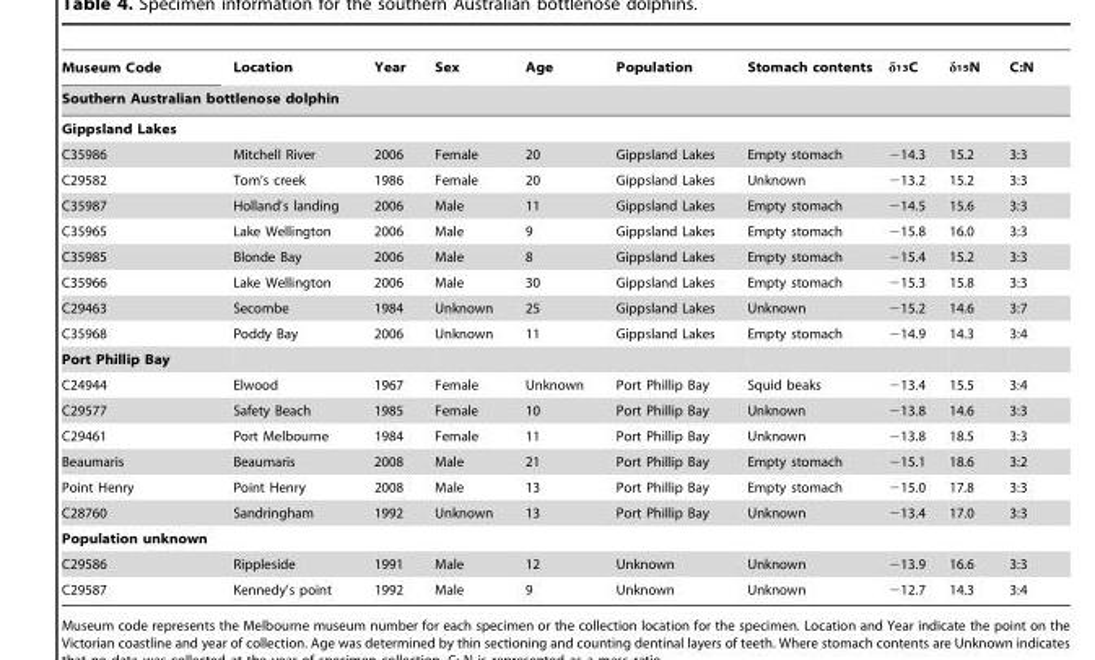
<table><thead><tr><td>Museum Code</td><td>Location</td><td>Year</td><td>Sex</td><td>Age</td><td>Population</td><td>Stomach contents</td><td>δ<sup>13</sup>C</td><td>δ<sup>15</sup>N</td><td>C:N</td></tr><tr><td colspan="10">Southern Australian bottlenose dolphin</td></tr></thead><tbody><tr><td colspan="10">Gippsland Lakes</td></tr><tr><td>C35986</td><td>Mitchell River</td><td>2006</td><td>Female</td><td>20</td><td>Gippsland Lakes</td><td>Empty stomach</td><td>−14.3</td><td>15.2</td><td>3:3</td></tr><tr><td>C29582</td><td>Tom’s creek</td><td>1986</td><td>Female</td><td>20</td><td>Gippsland Lakes</td><td>Unknown</td><td>−13.2</td><td>15.2</td><td>3:3</td></tr><tr><td>C35987</td><td>Holland’s landing</td><td>2006</td><td>Male</td><td>11</td><td>Gippsland Lakes</td><td>Empty stomach</td><td>−14.5</td><td>15.6</td><td>3:3</td></tr><tr><td>C35965</td><td>Lake Wellington</td><td>2006</td><td>Male</td><td>9</td><td>Gippsland Lakes</td><td>Empty stomach</td><td>−15.8</td><td>16.0</td><td>3:3</td></tr><tr><td>C35985</td><td>Blonde Bay</td><td>2006</td><td>Male</td><td>8</td><td>Gippsland Lakes</td><td>Empty stomach</td><td>−15.4</td><td>15.2</td><td>3:3</td></tr><tr><td>C35966</td><td>Lake Wellington</td><td>2006</td><td>Male</td><td>30</td><td>Gippsland Lakes</td><td>Empty stomach</td><td>−15.3</td><td>15.8</td><td>3:3</td></tr><tr><td>C29463</td><td>Secombe</td><td>1984</td><td>Unknown</td><td>25</td><td>Gippsland Lakes</td><td>Unknown</td><td>−15.2</td><td>14.6</td><td>3:7</td></tr><tr><td>C35968</td><td>Poddy Bay</td><td>2006</td><td>Unknown</td><td>11</td><td>Gippsland Lakes</td><td>Empty stomach</td><td>−14.9</td><td>14.3</td><td>3:4</td></tr><tr><td colspan="10">Port Phillip Bay</td></tr><tr><td>C24944</td><td>Elwood</td><td>1967</td><td>Female</td><td>Unknown</td><td>Port Phillip Bay</td><td>Squid beaks</td><td>−13.4</td><td>15.5</td><td>3:4</td></tr><tr><td>C29577</td><td>Safety Beach</td><td>1985</td><td>Female</td><td>10</td><td>Port Phillip Bay</td><td>Unknown</td><td>−13.8</td><td>14.6</td><td>3:3</td></tr><tr><td>C29461</td><td>Port Melbourne</td><td>1984</td><td>Female</td><td>11</td><td>Port Phillip Bay</td><td>Unknown</td><td>−13.8</td><td>18.5</td><td>3:3</td></tr><tr><td>Beaumaris</td><td>Beaumaris</td><td>2008</td><td>Male</td><td>21</td><td>Port Phillip Bay</td><td>Empty stomach</td><td>−15.1</td><td>18.6</td><td>3:2</td></tr><tr><td>Point Henry</td><td>Point Henry</td><td>2008</td><td>Male</td><td>13</td><td>Port Phillip Bay</td><td>Empty stomach</td><td>−15.0</td><td>17.8</td><td>3:3</td></tr><tr><td>C28760</td><td>Sandringham</td><td>1992</td><td>Unknown</td><td>13</td><td>Port Phillip Bay</td><td>Unknown</td><td>−13.4</td><td>17.0</td><td>3:3</td></tr><tr><td colspan="10">Population unknown</td></tr><tr><td>C29586</td><td>Rippleside</td><td>1991</td><td>Male</td><td>12</td><td>Unknown</td><td>Unknown</td><td>−13.9</td><td>16.6</td><td>3:3</td></tr><tr><td>C29587</td><td>Kennedy’s point</td><td>1992</td><td>Male</td><td>9</td><td>Unknown</td><td>Unknown</td><td>−12.7</td><td>14.3</td><td>3:4</td></tr></tbody></table>